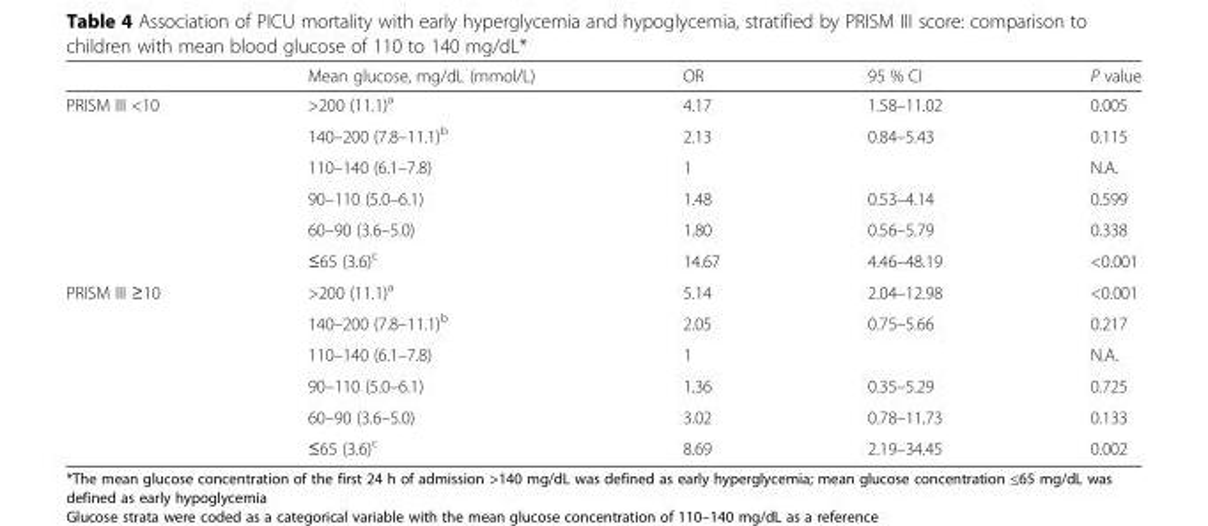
<table><thead><tr><td></td><td>Mean glucose, mg/dL (mmol/L)</td><td>OR</td><td>95 % CI</td><td>P value</td></tr></thead><tbody><tr><td rowspan="6">PRISM III &lt;10</td><td>&gt;200 (11.1)<sup>a</sup></td><td>4.17</td><td>1.58–11.02</td><td>0.005</td></tr><tr><td>140–200 (7.8–11.1)<sup>b</sup></td><td>2.13</td><td>0.84–5.43</td><td>0.115</td></tr><tr><td>110–140 (6.1–7.8)</td><td>1</td><td></td><td>N.A.</td></tr><tr><td>90–110 (5.0–6.1)</td><td>1.48</td><td>0.53–4.14</td><td>0.599</td></tr><tr><td>60–90 (3.6–5.0)</td><td>1.80</td><td>0.56–5.79</td><td>0.338</td></tr><tr><td>≤65 (3.6)<sup>c</sup></td><td>14.67</td><td>4.46–48.19</td><td>&lt;0.001</td></tr><tr><td rowspan="6">PRISM III ≥10</td><td>&gt;200 (11.1)<sup>a</sup></td><td>5.14</td><td>2.04–12.98</td><td>&lt;0.001</td></tr><tr><td>140–200 (7.8–11.1)<sup>b</sup></td><td>2.05</td><td>0.75–5.66</td><td>0.217</td></tr><tr><td>110–140 (6.1–7.8)</td><td>1</td><td></td><td>N.A.</td></tr><tr><td>90–110 (5.0–6.1)</td><td>1.36</td><td>0.35–5.29</td><td>0.725</td></tr><tr><td>60–90 (3.6–5.0)</td><td>3.02</td><td>0.78–11.73</td><td>0.133</td></tr><tr><td>≤65 (3.6)<sup>c</sup></td><td>8.69</td><td>2.19–34.45</td><td>0.002</td></tr></tbody></table>